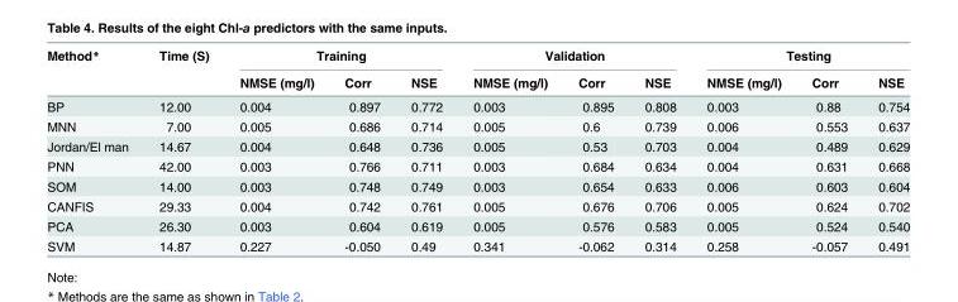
<table><thead><tr><td rowspan="2">Method*</td><td rowspan="2">Time (S)</td><td colspan="3">Training</td><td colspan="3">Validation</td><td colspan="3">Testing</td></tr><tr><td>NMSE (mg/l)</td><td>Corr</td><td>NSE</td><td>NMSE (mg/l)</td><td>Corr</td><td>NSE</td><td>NMSE (mg/l)</td><td>Corr</td><td>NSE</td></tr></thead><tbody><tr><td>BP</td><td>12.00</td><td>0.004</td><td>0.897</td><td>0.772</td><td>0.003</td><td>0.895</td><td>0.808</td><td>0.003</td><td>0.88</td><td>0.754</td></tr><tr><td>MNN</td><td>7.00</td><td>0.005</td><td>0.686</td><td>0.714</td><td>0.005</td><td>0.6</td><td>0.739</td><td>0.006</td><td>0.553</td><td>0.637</td></tr><tr><td>Jordan/El man</td><td>14.67</td><td>0.004</td><td>0.648</td><td>0.736</td><td>0.005</td><td>0.53</td><td>0.703</td><td>0.004</td><td>0.489</td><td>0.629</td></tr><tr><td>PNN</td><td>42.00</td><td>0.003</td><td>0.766</td><td>0.711</td><td>0.003</td><td>0.684</td><td>0.634</td><td>0.004</td><td>0.631</td><td>0.668</td></tr><tr><td>SOM</td><td>14.00</td><td>0.003</td><td>0.748</td><td>0.749</td><td>0.003</td><td>0.654</td><td>0.633</td><td>0.006</td><td>0.603</td><td>0.604</td></tr><tr><td>CANFIS</td><td>29.33</td><td>0.004</td><td>0.742</td><td>0.761</td><td>0.005</td><td>0.676</td><td>0.706</td><td>0.005</td><td>0.624</td><td>0.702</td></tr><tr><td>PCA</td><td>26.30</td><td>0.003</td><td>0.604</td><td>0.619</td><td>0.005</td><td>0.576</td><td>0.583</td><td>0.005</td><td>0.524</td><td>0.540</td></tr><tr><td>SVM</td><td>14.87</td><td>0.227</td><td>-0.050</td><td>0.49</td><td>0.341</td><td>-0.062</td><td>0.314</td><td>0.258</td><td>-0.057</td><td>0.491</td></tr></tbody></table>